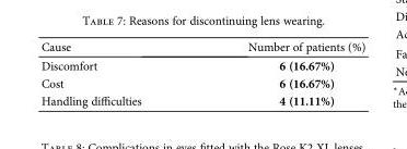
<table><thead><tr><td>Cause</td><td>Number of patients (%)</td></tr></thead><tbody><tr><td>Discomfort</td><td>6 (16.67%)</td></tr><tr><td>Cost</td><td>6 (16.67%)</td></tr><tr><td>Handling difficulties</td><td>4 (11.11%)</td></tr></tbody></table>